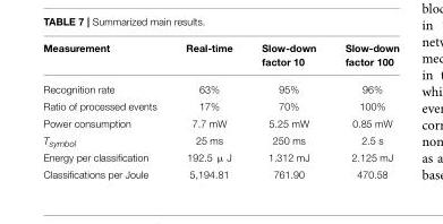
<table><thead><tr><td>Measurement</td><td>Real-time</td><td>Slow-down factor 10</td><td>Slow-down factor 100</td></tr></thead><tbody><tr><td>Recognition rate</td><td>63%</td><td>95%</td><td>96%</td></tr><tr><td>Ratio of processed events</td><td>17%</td><td>70%</td><td>100%</td></tr><tr><td>Power consumption</td><td>7.7 mW</td><td>5.25 mW</td><td>0.85 mW</td></tr><tr><td>T<sub>symbol</sub></td><td>25 ms</td><td>250 ms</td><td>2.5 s</td></tr><tr><td>Energy per classification</td><td>192.5 µ J</td><td>1.312 mJ</td><td>2.125 mJ</td></tr><tr><td>Classifications per Joule</td><td>5,194.81</td><td>761.90</td><td>470.58</td></tr></tbody></table>